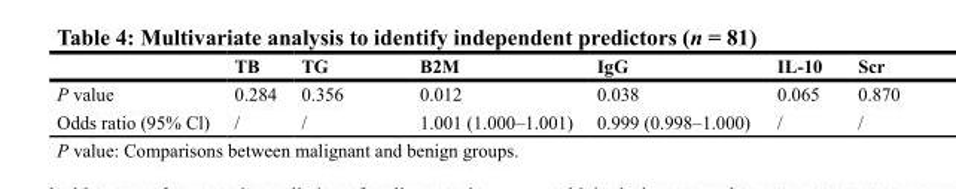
<table><thead><tr><td></td><td>TB</td><td>TG</td><td>B2M</td><td>IgG</td><td>IL-10</td><td>Scr</td></tr></thead><tbody><tr><td>P value</td><td>0.284</td><td>0.356</td><td>0.012</td><td>0.038</td><td>0.065</td><td>0.870</td></tr><tr><td>Odds ratio (95% Cl)</td><td>/</td><td>/</td><td>1.001 (1.000–1.001)</td><td>0.999 (0.998–1.000)</td><td>/</td><td>/</td></tr></tbody></table>